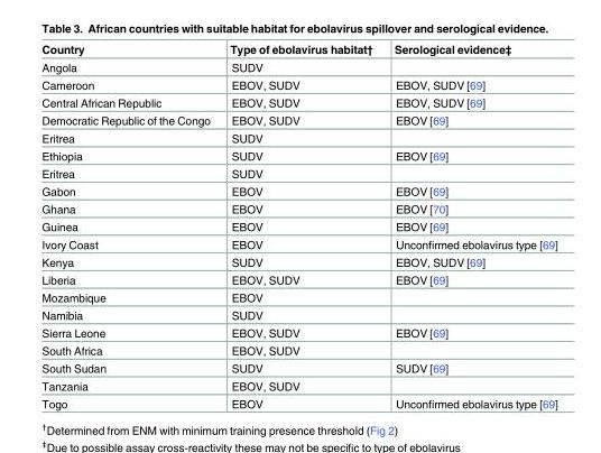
<table><thead><tr><td>Country</td><td>Type of ebolavirus habitat†</td><td>Serological evidence‡</td></tr></thead><tbody><tr><td>Angola</td><td>SUDV</td><td></td></tr><tr><td>Cameroon</td><td>EBOV, SUDV</td><td>EBOV, SUDV [69]</td></tr><tr><td>Central African Republic</td><td>EBOV, SUDV</td><td>EBOV, SUDV [69]</td></tr><tr><td>Democratic Republic of the Congo</td><td>EBOV, SUDV</td><td>EBOV [69]</td></tr><tr><td>Eritrea</td><td>SUDV</td><td></td></tr><tr><td>Ethiopia</td><td>SUDV</td><td>EBOV [69]</td></tr><tr><td>Eritrea</td><td>SUDV</td><td></td></tr><tr><td>Gabon</td><td>EBOV</td><td>EBOV [69]</td></tr><tr><td>Ghana</td><td>EBOV</td><td>EBOV [70]</td></tr><tr><td>Guinea</td><td>EBOV</td><td>EBOV [69]</td></tr><tr><td>Ivory Coast</td><td>EBOV</td><td>Unconfirmed ebolavirus type [69]</td></tr><tr><td>Kenya</td><td>SUDV</td><td>EBOV, SUDV [69]</td></tr><tr><td>Liberia</td><td>EBOV, SUDV</td><td>EBOV [69]</td></tr><tr><td>Mozambique</td><td>EBOV</td><td></td></tr><tr><td>Namibia</td><td>SUDV</td><td></td></tr><tr><td>Sierra Leone</td><td>EBOV, SUDV</td><td>EBOV [69]</td></tr><tr><td>South Africa</td><td>EBOV, SUDV</td><td></td></tr><tr><td>South Sudan</td><td>SUDV</td><td>SUDV [69]</td></tr><tr><td>Tanzania</td><td>EBOV, SUDV</td><td></td></tr><tr><td>Togo</td><td>EBOV</td><td>Unconfirmed ebolavirus type [69]</td></tr></tbody></table>